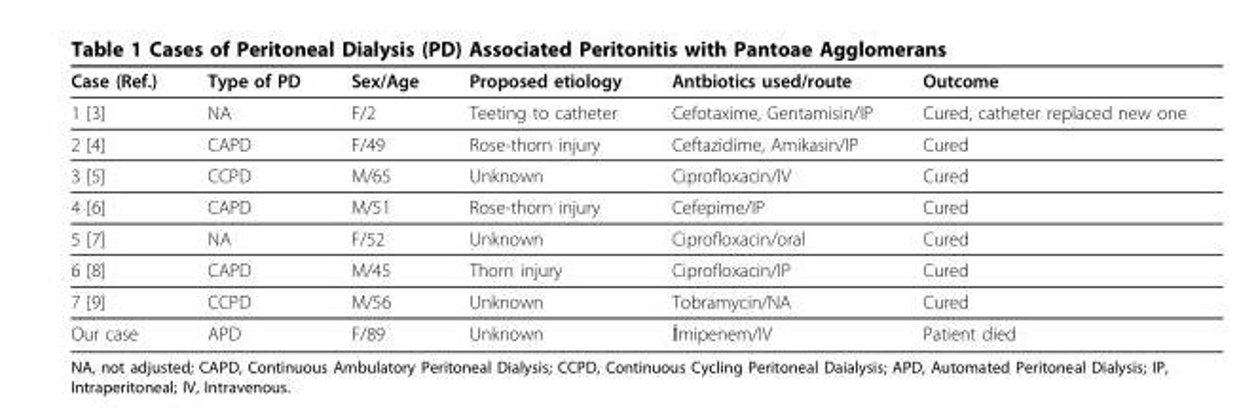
<table><thead><tr><td>Case (Ref.)</td><td>Type of PD</td><td>Sex/Age</td><td>Proposed etiology</td><td>Antbiotics used/route</td><td>Outcome</td></tr></thead><tbody><tr><td>1 [3]</td><td>NA</td><td>F/2</td><td>Teeting to catheter</td><td>Cefotaxime, Gentamisin/IP</td><td>Cured, catheter replaced new one</td></tr><tr><td>2 [4]</td><td>CAPD</td><td>F/49</td><td>Rose-thorn injury</td><td>Ceftazidime, Amikasin/IP</td><td>Cured</td></tr><tr><td>3 [5]</td><td>CCPD</td><td>M/65</td><td>Unknown</td><td>Ciprofloxacin/IV</td><td>Cured</td></tr><tr><td>4 [6]</td><td>CAPD</td><td>M/51</td><td>Rose-thorn injury</td><td>Cefepime/IP</td><td>Cured</td></tr><tr><td>5 [7]</td><td>NA</td><td>F/52</td><td>Unknown</td><td>Ciprofloxacin/oral</td><td>Cured</td></tr><tr><td>6 [8]</td><td>CAPD</td><td>M/45</td><td>Thorn injury</td><td>Ciprofloxacin/IP</td><td>Cured</td></tr><tr><td>7 [9]</td><td>CCPD</td><td>M/56</td><td>Unknown</td><td>Tobramycin/NA</td><td>Cured</td></tr><tr><td>Our case</td><td>APD</td><td>F/89</td><td>Unknown</td><td>İmipenem/IV</td><td>Patient died</td></tr></tbody></table>